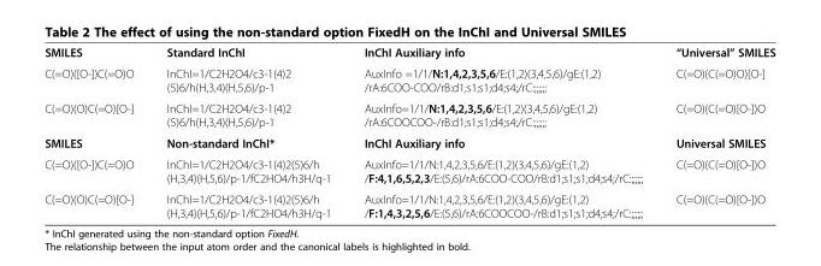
<table><tbody><tr><td>SMILES</td><td>Standard InChI</td><td>InChI Auxiliary info</td><td>“Universal” SMILES</td></tr><tr><td>C(=O)([O-])C(=O)O</td><td>InChI=1/C2H2O4/c3-1(4)2 (5)6/h(H,3,4)(H,5,6)/p-1</td><td>AuxInfo =1/1/N:1,4,2,3,5,6/E:(1,2)(3,4,5,6)/gE:(1,2) /rA:6COO-COO/rB:d1;s1;s1;d4;s4;/rC:;;;;;;</td><td>C(=O)(C(=O)O)[O-]</td></tr><tr><td>C(=O)(O)C(=O)[O-]</td><td>InChI=1/C2H2O4/c3-1(4)2 (5)6/h(H,3,4)(H,5,6)/p-1</td><td>AuxInfo=1/1/N:1,4,2,3,5,6/E:(1,2)(3,4,5,6)/gE:(1,2) /rA:6COOCOO-/rB:d1;s1;s1;d4;s4;/rC:;;;;;;</td><td>C(=O)(C(=O)[O-])O</td></tr><tr><td>SMILES</td><td>Non-standard InChI*</td><td>InChI Auxiliary info</td><td>Universal SMILES</td></tr><tr><td>C(=O)([O-])C(=O)O</td><td>InChI=1/C2H2O4/c3-1(4)2(5)6/h (H,3,4)(H,5,6)/p-1/fC2HO4/h3H/q-1</td><td>AuxInfo=1/1/N:1,4,2,3,5,6/E:(1,2)(3,4,5,6)/gE:(1,2) /F:4,1,6,5,2,3/E:(5,6)/rA:6COO-COO/rB:d1;s1;s1;d4;s4;/rC:;;;;;;</td><td>C(=O)(C(=O)[O-])O</td></tr><tr><td>C(=O)(O)C(=O)[O-]</td><td>InChI=1/C2H2O4/c3-1(4)2(5)6/h (H,3,4)(H,5,6)/p-1/fC2HO4/h3H/q-1</td><td>AuxInfo=1/1/N:1,4,2,3,5,6/E:(1,2)(3,4,5,6)/gE:(1,2) /F:1,4,3,2,5,6/E:(5,6)/rA:6COOCOO-/rB:d1;s1;s1;d4;s4;/rC:;;;;;;</td><td>C(=O)(C(=O)[O-])O</td></tr></tbody></table>